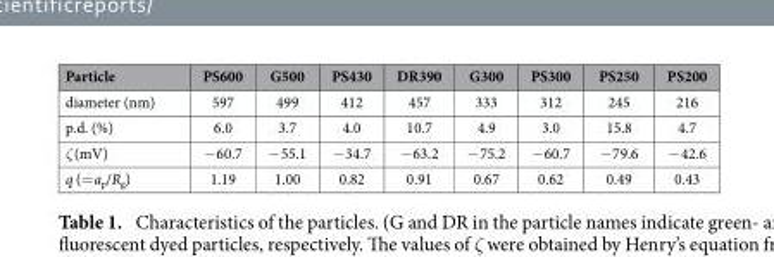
<table><thead><tr><td>Particle</td><td>PS600</td><td>G500</td><td>PS430</td><td>DR390</td><td>G300</td><td>PS300</td><td>PS250</td><td>PS200</td></tr></thead><tbody><tr><td>diameter (nm)</td><td>597</td><td>499</td><td>412</td><td>457</td><td>333</td><td>312</td><td>245</td><td>216</td></tr><tr><td>p.d. (%)</td><td>6.0</td><td>3.7</td><td>4.0</td><td>10.7</td><td>4.9</td><td>3.0</td><td>15.8</td><td>4.7</td></tr><tr><td>ζ (mV)</td><td>− 60.7</td><td>− 55.1</td><td>− 34.7</td><td>− 63.2</td><td>− 75.2</td><td>− 60.7</td><td>− 79.6</td><td>− 42.6</td></tr><tr><td>q (= a<sub>p</sub>/R<sub>g</sub>)</td><td>1.19</td><td>1.00</td><td>0.82</td><td>0.91</td><td>0.67</td><td>0.62</td><td>0.49</td><td>0.43</td></tr></tbody></table>